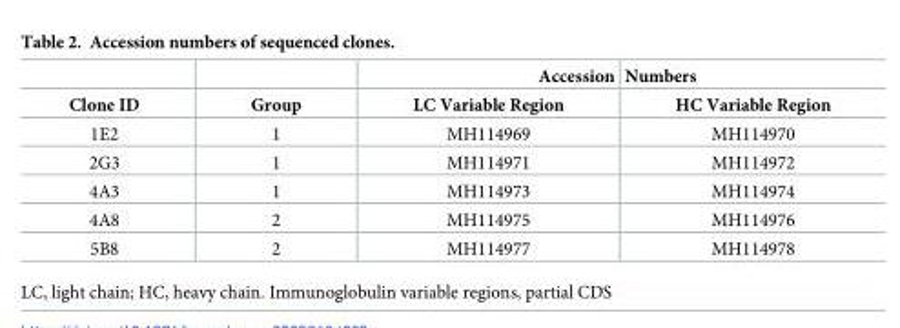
<table><thead><tr><td rowspan="2">Clone ID</td><td rowspan="2">Group</td><td rowspan="2">Accession LC Variable Region</td><td rowspan="2">Numbers HC Variable Region</td></tr><tr></tr></thead><tbody><tr><td>1E2</td><td>1</td><td>MH114969</td><td>MH114970</td></tr><tr><td>2G3</td><td>1</td><td>MH114971</td><td>MH114972</td></tr><tr><td>4A3</td><td>1</td><td>MH114973</td><td>MH114974</td></tr><tr><td>4A8</td><td>2</td><td>MH114975</td><td>MH114976</td></tr><tr><td>5B8</td><td>2</td><td>MH114977</td><td>MH114978</td></tr></tbody></table>